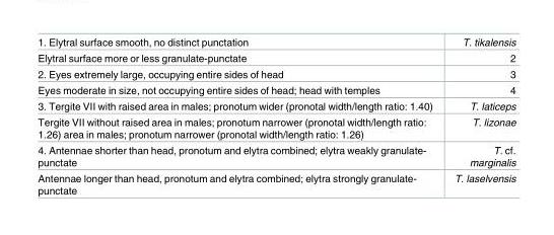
<table><tbody><tr><td>1. Elytral surface smooth, no distinct punctation</td><td>T. tikalensis</td></tr><tr><td>Elytral surface more or less granulate-punctate</td><td>2</td></tr><tr><td>2. Eyes extremely large, occupying entire sides of head</td><td>3</td></tr><tr><td>Eyes moderate in size, not occupying entire sides of head; head with temples</td><td>4</td></tr><tr><td>3. Tergite VII with raised area in males; pronotum wider (pronotal width/length ratio: 1.40)</td><td>T. laticeps</td></tr><tr><td>Tergite VII without raised area in males; pronotum narrower (pronotal width/length ratio: 1.26) area in males; pronotum narrower (pronotal width/length ratio: 1.26)</td><td>T. lizonae</td></tr><tr><td>4. Antennae shorter than head, pronotum and elytra combined; elytra weakly granulate- punctate</td><td>T. cf. marginalis</td></tr><tr><td>Antennae longer than head, pronotum and elytra combined; elytra strongly granulate- punctate</td><td>T. laselvensis</td></tr></tbody></table>